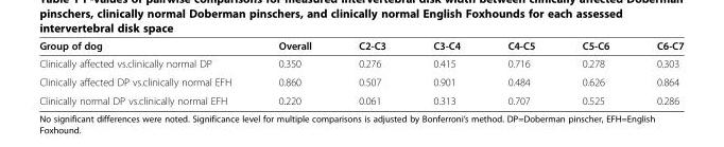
<table><thead><tr><td>Group of dog</td><td>Overall</td><td>C2-C3</td><td>C3-C4</td><td>C4-C5</td><td>C5-C6</td><td>C6-C7</td></tr></thead><tbody><tr><td>Clinically affected vs.clinically normal DP</td><td>0.350</td><td>0.276</td><td>0.415</td><td>0.716</td><td>0.278</td><td>0.303</td></tr><tr><td>Clinically affected DP vs.clinically normal EFH</td><td>0.860</td><td>0.507</td><td>0.901</td><td>0.484</td><td>0.626</td><td>0.864</td></tr><tr><td>Clinically normal DP vs.clinically normal EFH</td><td>0.220</td><td>0.061</td><td>0.313</td><td>0.707</td><td>0.525</td><td>0.286</td></tr></tbody></table>